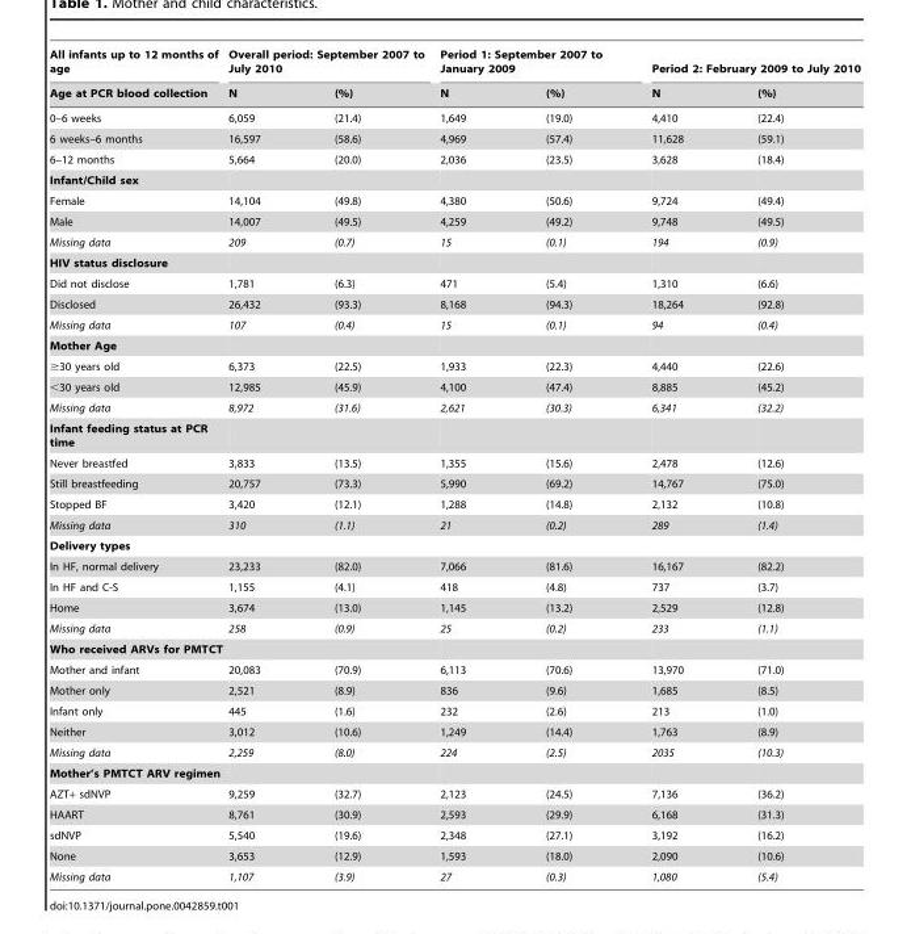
<table><thead><tr><td rowspan="2">All infants up to 12 months of age Age at PCR blood collection</td><td colspan="2">Overall period: September 2007 to July 2010</td><td colspan="2">Period 1: September 2007 to January 2009</td><td colspan="2">Period 2: February 2009 to July 2010</td></tr><tr><td>N</td><td>(%)</td><td>N</td><td>(%)</td><td>N</td><td>(%)</td></tr></thead><tbody><tr><td>0–6 weeks</td><td>6,059</td><td>(21.4)</td><td>1,649</td><td>(19.0)</td><td>4,410</td><td>(22.4)</td></tr><tr><td>6 weeks–6 months</td><td>16,597</td><td>(58.6)</td><td>4,969</td><td>(57.4)</td><td>11,628</td><td>(59.1)</td></tr><tr><td>6–12 months</td><td>5,664</td><td>(20.0)</td><td>2,036</td><td>(23.5)</td><td>3,628</td><td>(18.4)</td></tr><tr><td colspan="7">Infant/Child sex</td></tr><tr><td>Female</td><td>14,104</td><td>(49.8)</td><td>4,380</td><td>(50.6)</td><td>9,724</td><td>(49.4)</td></tr><tr><td>Male</td><td>14,007</td><td>(49.5)</td><td>4,259</td><td>(49.2)</td><td>9,748</td><td>(49.5)</td></tr><tr><td>Missing data</td><td>209</td><td>(0.7)</td><td>15</td><td>(0.1)</td><td>194</td><td>(0.9)</td></tr><tr><td colspan="7">HIV status disclosure</td></tr><tr><td>Did not disclose</td><td>1,781</td><td>(6.3)</td><td>471</td><td>(5.4)</td><td>1,310</td><td>(6.6)</td></tr><tr><td>Disclosed</td><td>26,432</td><td>(93.3)</td><td>8,168</td><td>(94.3)</td><td>18,264</td><td>(92.8)</td></tr><tr><td>Missing data</td><td>107</td><td>(0.4)</td><td>15</td><td>(0.1)</td><td>94</td><td>(0.4)</td></tr><tr><td colspan="7">Mother Age</td></tr><tr><td>≥30 years old</td><td>6,373</td><td>(22.5)</td><td>1,933</td><td>(22.3)</td><td>4,440</td><td>(22.6)</td></tr><tr><td>&lt;30 years old</td><td>12,985</td><td>(45.9)</td><td>4,100</td><td>(47.4)</td><td>8,885</td><td>(45.2)</td></tr><tr><td>Missing data</td><td>8,972</td><td>(31.6)</td><td>2,621</td><td>(30.3)</td><td>6,341</td><td>(32.2)</td></tr><tr><td colspan="7">Infant feeding status at PCR time</td></tr><tr><td>Never breastfed</td><td>3,833</td><td>(13.5)</td><td>1,355</td><td>(15.6)</td><td>2,478</td><td>(12.6)</td></tr><tr><td>Still breastfeeding</td><td>20,757</td><td>(73.3)</td><td>5,990</td><td>(69.2)</td><td>14,767</td><td>(75.0)</td></tr><tr><td>Stopped BF</td><td>3,420</td><td>(12.1)</td><td>1,288</td><td>(14.8)</td><td>2,132</td><td>(10.8)</td></tr><tr><td>Missing data</td><td>310</td><td>(1.1)</td><td>21</td><td>(0.2)</td><td>289</td><td>(1.4)</td></tr><tr><td colspan="7">Delivery types</td></tr><tr><td>In HF, normal delivery</td><td>23,233</td><td>(82.0)</td><td>7,066</td><td>(81.6)</td><td>16,167</td><td>(82.2)</td></tr><tr><td>In HF and C-S</td><td>1,155</td><td>(4.1)</td><td>418</td><td>(4.8)</td><td>737</td><td>(3.7)</td></tr><tr><td>Home</td><td>3,674</td><td>(13.0)</td><td>1,145</td><td>(13.2)</td><td>2,529</td><td>(12.8)</td></tr><tr><td>Missing data</td><td>258</td><td>(0.9)</td><td>25</td><td>(0.2)</td><td>233</td><td>(1.1)</td></tr><tr><td colspan="7">Who received ARVs for PMTCT</td></tr><tr><td>Mother and infant</td><td>20,083</td><td>(70.9)</td><td>6,113</td><td>(70.6)</td><td>13,970</td><td>(71.0)</td></tr><tr><td>Mother only</td><td>2,521</td><td>(8.9)</td><td>836</td><td>(9.6)</td><td>1,685</td><td>(8.5)</td></tr><tr><td>Infant only</td><td>445</td><td>(1.6)</td><td>232</td><td>(2.6)</td><td>213</td><td>(1.0)</td></tr><tr><td>Neither</td><td>3,012</td><td>(10.6)</td><td>1,249</td><td>(14.4)</td><td>1,763</td><td>(8.9)</td></tr><tr><td>Missing data</td><td>2,259</td><td>(8.0)</td><td>224</td><td>(2.5)</td><td>2035</td><td>(10.3)</td></tr><tr><td colspan="7">Mother’s PMTCT ARV regimen</td></tr><tr><td>AZT+ sdNVP</td><td>9,259</td><td>(32.7)</td><td>2,123</td><td>(24.5)</td><td>7,136</td><td>(36.2)</td></tr><tr><td>HAART</td><td>8,761</td><td>(30.9)</td><td>2,593</td><td>(29.9)</td><td>6,168</td><td>(31.3)</td></tr><tr><td>sdNVP</td><td>5,540</td><td>(19.6)</td><td>2,348</td><td>(27.1)</td><td>3,192</td><td>(16.2)</td></tr><tr><td>None</td><td>3,653</td><td>(12.9)</td><td>1,593</td><td>(18.0)</td><td>2,090</td><td>(10.6)</td></tr><tr><td>Missing data</td><td>1,107</td><td>(3.9)</td><td>27</td><td>(0.3)</td><td>1,080</td><td>(5.4)</td></tr></tbody></table>